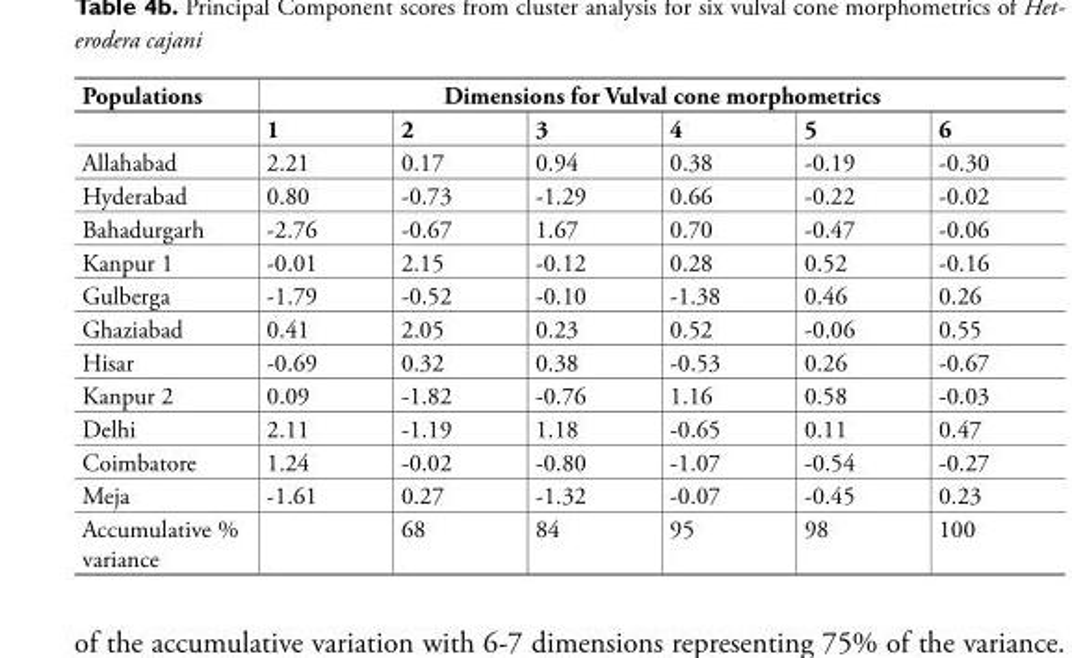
<table><thead><tr><td rowspan="2">Populations</td><td colspan="6">Dimensions for Vulval cone morphometrics</td></tr><tr><td>1</td><td>2</td><td>3</td><td>4</td><td>5</td><td>6</td></tr></thead><tbody><tr><td>Allahabad</td><td>2.21</td><td>0.17</td><td>0.94</td><td>0.38</td><td>-0.19</td><td>-0.30</td></tr><tr><td>Hyderabad</td><td>0.80</td><td>-0.73</td><td>-1.29</td><td>0.66</td><td>-0.22</td><td>-0.02</td></tr><tr><td>Bahadurgarh</td><td>-2.76</td><td>-0.67</td><td>1.67</td><td>0.70</td><td>-0.47</td><td>-0.06</td></tr><tr><td>Kanpur 1</td><td>-0.01</td><td>2.15</td><td>-0.12</td><td>0.28</td><td>0.52</td><td>-0.16</td></tr><tr><td>Gulberga</td><td>-1.79</td><td>-0.52</td><td>-0.10</td><td>-1.38</td><td>0.46</td><td>0.26</td></tr><tr><td>Ghaziabad</td><td>0.41</td><td>2.05</td><td>0.23</td><td>0.52</td><td>-0.06</td><td>0.55</td></tr><tr><td>Hisar</td><td>-0.69</td><td>0.32</td><td>0.38</td><td>-0.53</td><td>0.26</td><td>-0.67</td></tr><tr><td>Kanpur 2</td><td>0.09</td><td>-1.82</td><td>-0.76</td><td>1.16</td><td>0.58</td><td>-0.03</td></tr><tr><td>Delhi</td><td>2.11</td><td>-1.19</td><td>1.18</td><td>-0.65</td><td>0.11</td><td>0.47</td></tr><tr><td>Coimbatore</td><td>1.24</td><td>-0.02</td><td>-0.80</td><td>-1.07</td><td>-0.54</td><td>-0.27</td></tr><tr><td>Meja</td><td>-1.61</td><td>0.27</td><td>-1.32</td><td>-0.07</td><td>-0.45</td><td>0.23</td></tr><tr><td>Accumulative % variance</td><td></td><td>68</td><td>84</td><td>95</td><td>98</td><td>100</td></tr></tbody></table>